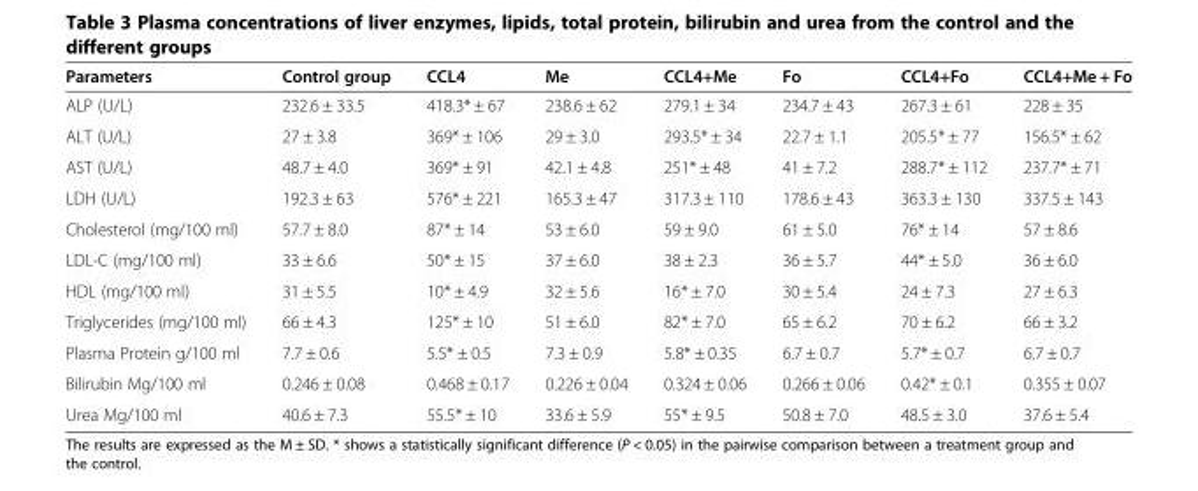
<table><thead><tr><td>Parameters</td><td>Control group</td><td>CCL4</td><td>Me</td><td>CCL4+Me</td><td>Fo</td><td>CCL4+Fo</td><td>CCL4+Me + Fo</td></tr></thead><tbody><tr><td>ALP (U/L)</td><td>232.6 ± 33.5</td><td>418.3* ± 67</td><td>238.6 ± 62</td><td>279.1 ± 34</td><td>234.7 ± 43</td><td>267.3 ± 61</td><td>228 ± 35</td></tr><tr><td>ALT (U/L)</td><td>27 ± 3.8</td><td>369* ± 106</td><td>29 ± 3.0</td><td>293.5* ± 34</td><td>22.7 ± 1.1</td><td>205.5* ± 77</td><td>156.5* ± 62</td></tr><tr><td>AST (U/L)</td><td>48.7 ± 4.0</td><td>369* ± 91</td><td>42.1 ± 4.8</td><td>251* ± 48</td><td>41 ± 7.2</td><td>288.7* ± 112</td><td>237.7* ± 71</td></tr><tr><td>LDH (U/L)</td><td>192.3 ± 63</td><td>576* ± 221</td><td>165.3 ± 47</td><td>317.3 ± 110</td><td>178.6 ± 43</td><td>363.3 ± 130</td><td>337.5 ± 143</td></tr><tr><td>Cholesterol (mg/100 ml)</td><td>57.7 ± 8.0</td><td>87* ± 14</td><td>53 ± 6.0</td><td>59 ± 9.0</td><td>61 ± 5.0</td><td>76* ± 14</td><td>57 ± 8.6</td></tr><tr><td>LDL-C (mg/100 ml)</td><td>33 ± 6.6</td><td>50* ± 15</td><td>37 ± 6.0</td><td>38 ± 2.3</td><td>36 ± 5.7</td><td>44* ± 5.0</td><td>36 ± 6.0</td></tr><tr><td>HDL (mg/100 ml)</td><td>31 ± 5.5</td><td>10* ± 4.9</td><td>32 ± 5.6</td><td>16* ± 7.0</td><td>30 ± 5.4</td><td>24 ± 7.3</td><td>27 ± 6.3</td></tr><tr><td>Triglycerides (mg/100 ml)</td><td>66 ± 4.3</td><td>125* ± 10</td><td>51 ± 6.0</td><td>82* ± 7.0</td><td>65 ± 6.2</td><td>70 ± 6.2</td><td>66 ± 3.2</td></tr><tr><td>Plasma Protein g/100 ml</td><td>7.7 ± 0.6</td><td>5.5* ± 0.5</td><td>7.3 ± 0.9</td><td>5.8* ± 0.35</td><td>6.7 ± 0.7</td><td>5.7* ± 0.7</td><td>6.7 ± 0.7</td></tr><tr><td>Bilirubin Mg/100 ml</td><td>0.246 ± 0.08</td><td>0.468 ± 0.17</td><td>0.226 ± 0.04</td><td>0.324 ± 0.06</td><td>0.266 ± 0.06</td><td>0.42* ± 0.1</td><td>0.355 ± 0.07</td></tr><tr><td>Urea Mg/100 ml</td><td>40.6 ± 7.3</td><td>55.5* ± 10</td><td>33.6 ± 5.9</td><td>55* ± 9.5</td><td>50.8 ± 7.0</td><td>48.5 ± 3.0</td><td>37.6 ± 5.4</td></tr></tbody></table>